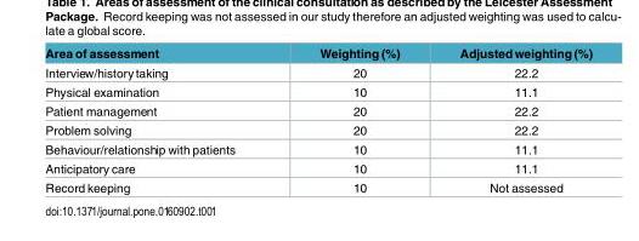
<table><thead><tr><td>Area of assessment</td><td>Weighting (%)</td><td>Adjusted weighting (%)</td></tr></thead><tbody><tr><td>Interview/historytaking</td><td>20</td><td>22.2</td></tr><tr><td>Physical examination</td><td>10</td><td>11.1</td></tr><tr><td>Patient management</td><td>20</td><td>22.2</td></tr><tr><td>Problem solving</td><td>20</td><td>22.2</td></tr><tr><td>Behaviour/relationship with patients</td><td>10</td><td>11.1</td></tr><tr><td>Anticipatory care</td><td>10</td><td>11.1</td></tr><tr><td>Record keeping</td><td>10</td><td>Not assessed</td></tr></tbody></table>